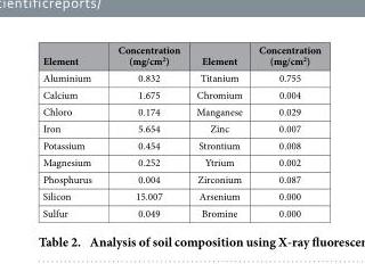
<table><thead><tr><td>Element</td><td>Concentration (mg/cm<sup>2</sup>)</td><td>Element</td><td>Concentration (mg/cm<sup>2</sup>)</td></tr></thead><tbody><tr><td>Aluminium</td><td>0.832</td><td>Titanium</td><td>0.755</td></tr><tr><td>Calcium</td><td>1.675</td><td>Chromium</td><td>0.004</td></tr><tr><td>Chloro</td><td>0.174</td><td>Manganese</td><td>0.029</td></tr><tr><td>Iron</td><td>5.654</td><td>Zinc</td><td>0.007</td></tr><tr><td>Potassium</td><td>0.454</td><td>Strontium</td><td>0.008</td></tr><tr><td>Magnesium</td><td>0.252</td><td>Ytrium</td><td>0.002</td></tr><tr><td>Phosphurus</td><td>0.004</td><td>Zirconium</td><td>0.087</td></tr><tr><td>Silicon</td><td>15.007</td><td>Arsenium</td><td>0.000</td></tr><tr><td>Sulfur</td><td>0.049</td><td>Bromine</td><td>0.000</td></tr></tbody></table>